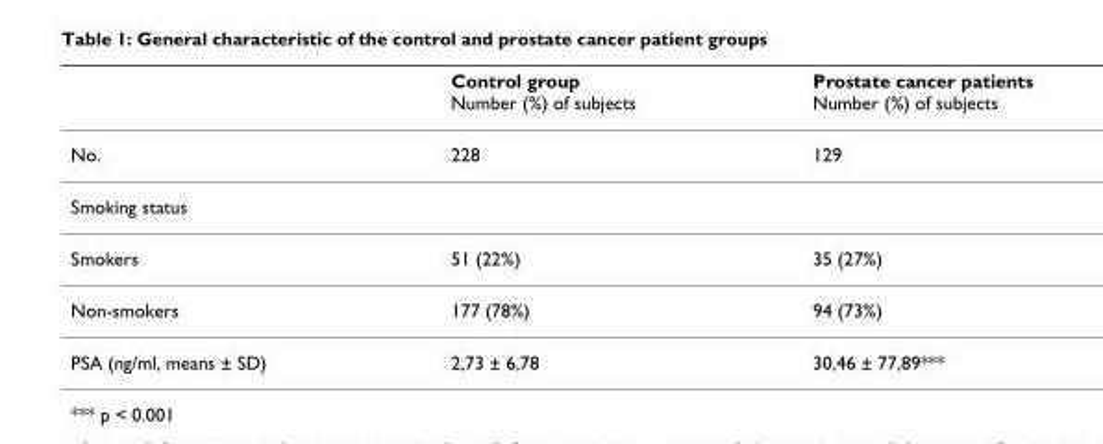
<table><thead><tr><td></td><td>Control group Number (%) of subjects</td><td>Prostate cancer patients Number (%) of subjects</td></tr></thead><tbody><tr><td>No.</td><td>228</td><td>129</td></tr><tr><td colspan="3">Smoking status</td></tr><tr><td>Smokers</td><td>51 (22%)</td><td>35 (27%)</td></tr><tr><td>Non-smokers</td><td>177 (78%)</td><td>94 (73%)</td></tr><tr><td>PSA (ng/ml, means ± SD)</td><td>2,73 ± 6,78</td><td>30,46 ± 77,89***</td></tr></tbody></table>